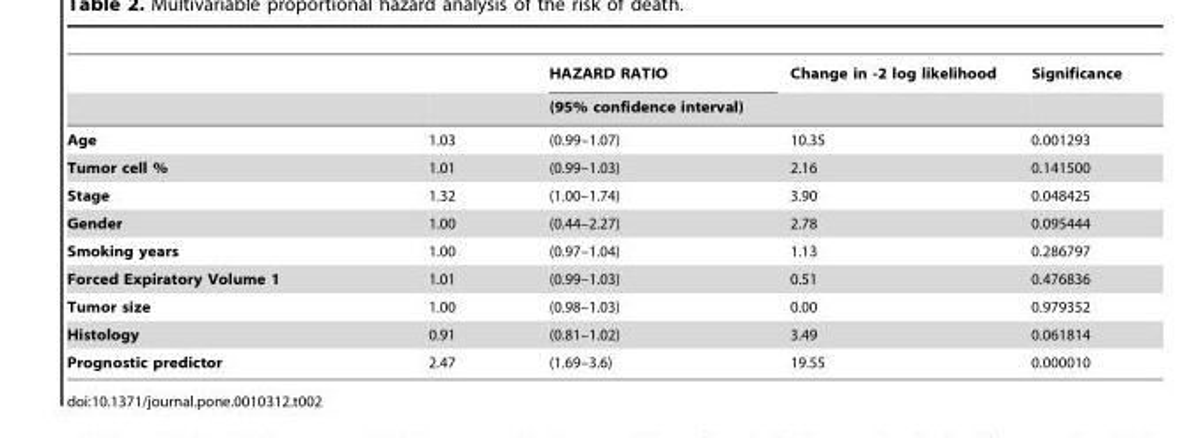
<table><thead><tr><td rowspan="2"></td><td rowspan="2"></td><td rowspan="2">HAZARD RATIO (95% confidence interval)</td><td rowspan="2">Change in -2 log likelihood</td><td rowspan="2">Significance</td></tr><tr></tr></thead><tbody><tr><td>Age</td><td>1.03</td><td>(0.99–1.07)</td><td>10.35</td><td>0.001293</td></tr><tr><td>Tumor cell %</td><td>1.01</td><td>(0.99–1.03)</td><td>2.16</td><td>0.141500</td></tr><tr><td>Stage</td><td>1.32</td><td>(1.00–1.74)</td><td>3.90</td><td>0.048425</td></tr><tr><td>Gender</td><td>1.00</td><td>(0.44–2.27)</td><td>2.78</td><td>0.095444</td></tr><tr><td>Smoking years</td><td>1.00</td><td>(0.97–1.04)</td><td>1.13</td><td>0.286797</td></tr><tr><td>Forced Expiratory Volume 1</td><td>1.01</td><td>(0.99–1.03)</td><td>0.51</td><td>0.476836</td></tr><tr><td>Tumor size</td><td>1.00</td><td>(0.98–1.03)</td><td>0.00</td><td>0.979352</td></tr><tr><td>Histology</td><td>0.91</td><td>(0.81–1.02)</td><td>3.49</td><td>0.061814</td></tr><tr><td>Prognostic predictor</td><td>2.47</td><td>(1.69–3.6)</td><td>19.55</td><td>0.000010</td></tr></tbody></table>